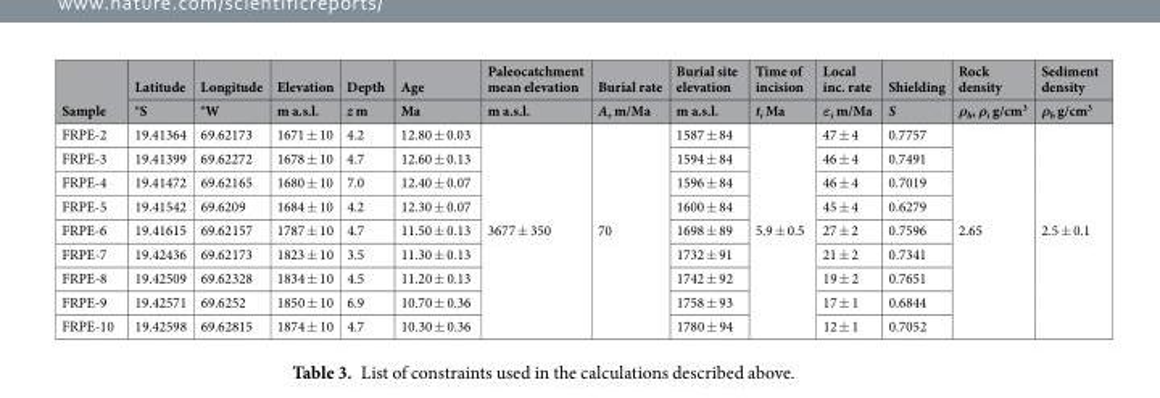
<table><thead><tr><td rowspan="2">Sample</td><td rowspan="2">Latitude °S</td><td rowspan="2">Longitude °W</td><td rowspan="2">Elevation m a.s.l.</td><td rowspan="2">Depth z m</td><td rowspan="2">Age Ma</td><td rowspan="2">Paleocatchment mean elevation m a.s.l.</td><td rowspan="2">Burial rate A<sub>r</sub> m/Ma</td><td rowspan="2">Burial site elevation m a.s.l.</td><td rowspan="2">Time of incision t<sub>i</sub> Ma</td><td rowspan="2">Local inc. rate ε<sub>i</sub> m/Ma</td><td rowspan="2">Shielding S</td><td rowspan="2">Rock density ρ<sub>h</sub>, ρ<sub>i</sub> g/cm<sup>3</sup></td><td rowspan="2">Sediment density ρ<sub>b</sub> g/cm<sup>3</sup></td></tr><tr></tr></thead><tbody><tr><td>FRPE-2</td><td>19.41364</td><td>69.62173</td><td>1671 ± 10</td><td>4.2</td><td>12.80 ± 0.03</td><td rowspan="9">3677 ± 350</td><td rowspan="9">70</td><td>1587 ± 84</td><td rowspan="9">5.9 ± 0.5</td><td>47 ± 4</td><td>0.7757</td><td rowspan="9">2.65</td><td rowspan="9">2.5 ± 0.1</td></tr><tr><td>FRPE-3</td><td>19.41399</td><td>69.62272</td><td>1678 ± 10</td><td>4.7</td><td>12.60 ± 0.13</td><td>1594 ± 84</td><td>46 ± 4</td><td>0.7491</td></tr><tr><td>FRPE-4</td><td>19.41472</td><td>69.62165</td><td>1680 ± 10</td><td>7.0</td><td>12.40 ± 0.07</td><td>1596 ± 84</td><td>46 ± 4</td><td>0.7019</td></tr><tr><td>FRPE-5</td><td>19.41542</td><td>69.6209</td><td>1684 ± 10</td><td>4.2</td><td>12.30 ± 0.07</td><td>1600 ± 84</td><td>45 ± 4</td><td>0.6279</td></tr><tr><td>FRPE-6</td><td>19.41615</td><td>69.62157</td><td>1787 ± 10</td><td>4.7</td><td>11.50 ± 0.13</td><td>1698 ± 89</td><td>27 ± 2</td><td>0.7596</td></tr><tr><td>FRPE-7</td><td>19.42436</td><td>69.62173</td><td>1823 ± 10</td><td>3.5</td><td>11.30 ± 0.13</td><td>1732 ± 91</td><td>21 ± 2</td><td>0.7341</td></tr><tr><td>FRPE-8</td><td>19.42509</td><td>69.62328</td><td>1834 ± 10</td><td>4.5</td><td>11.20 ± 0.13</td><td>1742 ± 92</td><td>19 ± 2</td><td>0.7651</td></tr><tr><td>FRPE-9</td><td>19.42571</td><td>69.6252</td><td>1850 ± 10</td><td>6.9</td><td>10.70 ± 0.36</td><td>1758 ± 93</td><td>17 ± 1</td><td>0.6844</td></tr><tr><td>FRPE-10</td><td>19.42598</td><td>69.62815</td><td>1874 ± 10</td><td>4.7</td><td>10.30 ± 0.36</td><td>1780 ± 94</td><td>12 ± 1</td><td>0.7052</td></tr></tbody></table>